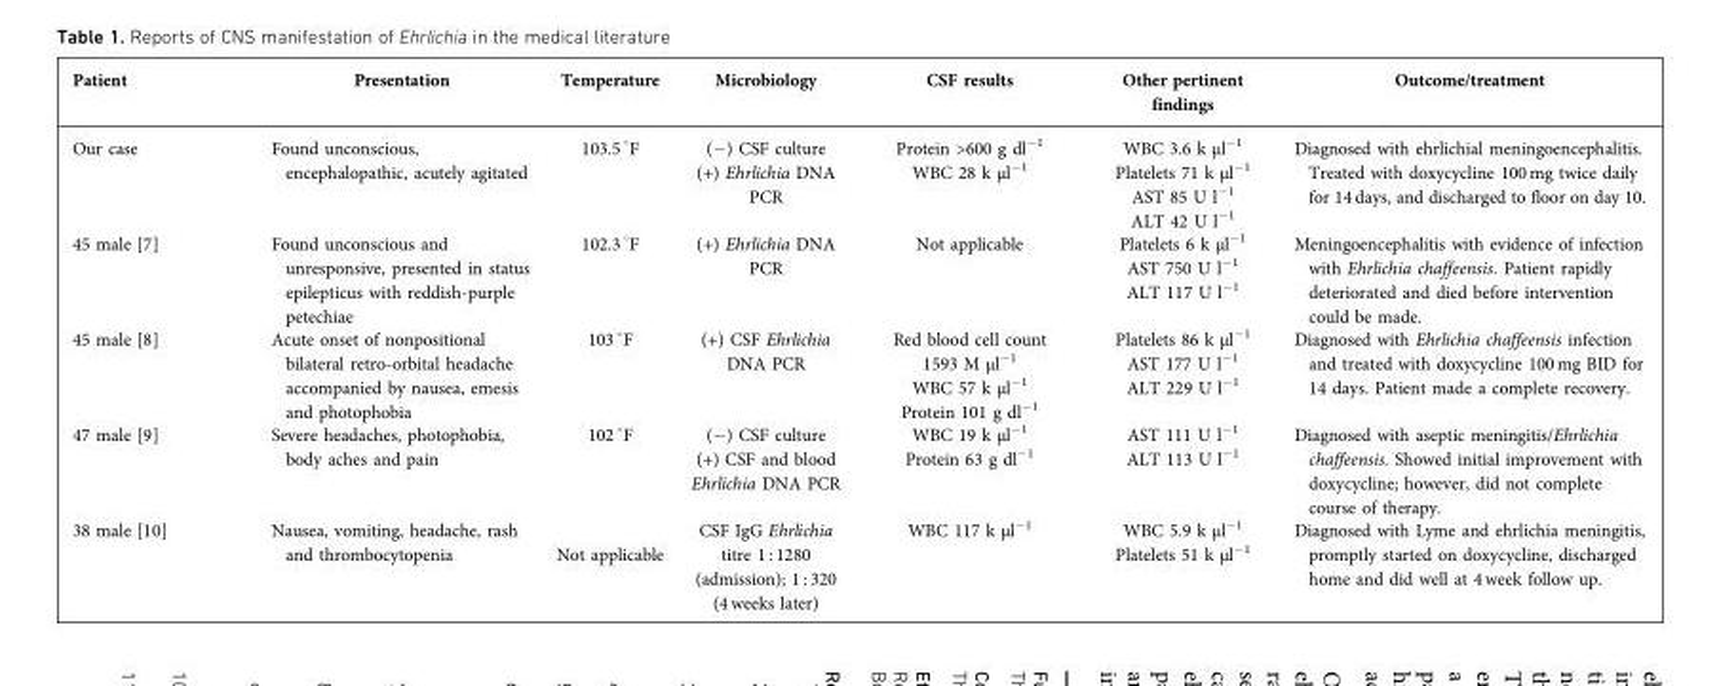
<table><thead><tr><td>Patient</td><td>Presentation</td><td>Temperature</td><td>Microbiology</td><td>CSF results</td><td>Other pertinent findings</td><td>Outcome/treatment</td></tr></thead><tbody><tr><td>Our case</td><td>Found unconscious, encephalopathic, acutely agitated</td><td>103.5 °F</td><td>(−) CSF culture (+) Ehrlichia DNA PCR</td><td>Protein &gt;600 g dl<sup>−1</sup> WBC 28 k µl<sup>−1</sup></td><td>WBC 3.6 k µl<sup>−1</sup> Platelets 71 k µl<sup>−1</sup> AST 85 U l<sup>−1</sup> ALT 42 U l<sup>−1</sup></td><td>Diagnosed with ehrlichial meningoencephalitis. Treated with doxycycline 100 mg twice daily for 14 days, and discharged to floor on day 10.</td></tr><tr><td>45 male [7]</td><td>Found unconscious and unresponsive, presented in status epilepticus with reddish-purple petechiae</td><td>102.3 °F</td><td>(+) Ehrlichia DNA PCR</td><td>Not applicable</td><td>Platelets 6 k µl<sup>−1</sup> AST 750 U l<sup>−1</sup> ALT 117 U l<sup>−1</sup></td><td>Meningoencephalitis with evidence of infection with Ehrlichia chaffeensis. Patient rapidly deteriorated and died before intervention could be made.</td></tr><tr><td>45 male [8]</td><td>Acute onset of nonpositional bilateral retro-orbital headache accompanied by nausea, emesis and photophobia</td><td>103 °F</td><td>(+) CSF Ehrlichia DNA PCR</td><td>Red blood cell count 1593 M µl<sup>−1</sup> WBC 57 k µl<sup>−1</sup> Protein 101 g dl<sup>−1</sup></td><td>Platelets 86 k µl<sup>−1</sup> AST 177 U l<sup>−1</sup> ALT 229 U l<sup>−1</sup></td><td>Diagnosed with Ehrlichia chaffeensis infection and treated with doxycycline 100 mg BID for 14 days. Patient made a complete recovery.</td></tr><tr><td>47 male [9]</td><td>Severe headaches, photophobia, body aches and pain</td><td>102 °F</td><td>(−) CSF culture (+) CSF and blood Ehrlichia DNA PCR</td><td>WBC 19 k µl<sup>−1</sup> Protein 63 g dl<sup>−1</sup></td><td>AST 111 U l<sup>−1</sup> ALT 113 U l<sup>−1</sup></td><td>Diagnosed with aseptic meningitis/Ehrlichia chaffeensis. Showed initial improvement with doxycycline; however, did not complete course of therapy.</td></tr><tr><td>38 male [10]</td><td>Nausea, vomiting, headache, rash and thrombocytopenia</td><td>Not applicable</td><td>CSF IgG Ehrlichia titre 1 : 1280 (admission); 1 : 320 (4 weeks later)</td><td>WBC 117 k µl<sup>−1</sup></td><td>WBC 5.9 k µl<sup>−1</sup> Platelets 51 k µl<sup>−1</sup></td><td>Diagnosed with Lyme and ehrlichia meningitis, promptly started on doxycycline, discharged home and did well at 4 week follow up.</td></tr></tbody></table>